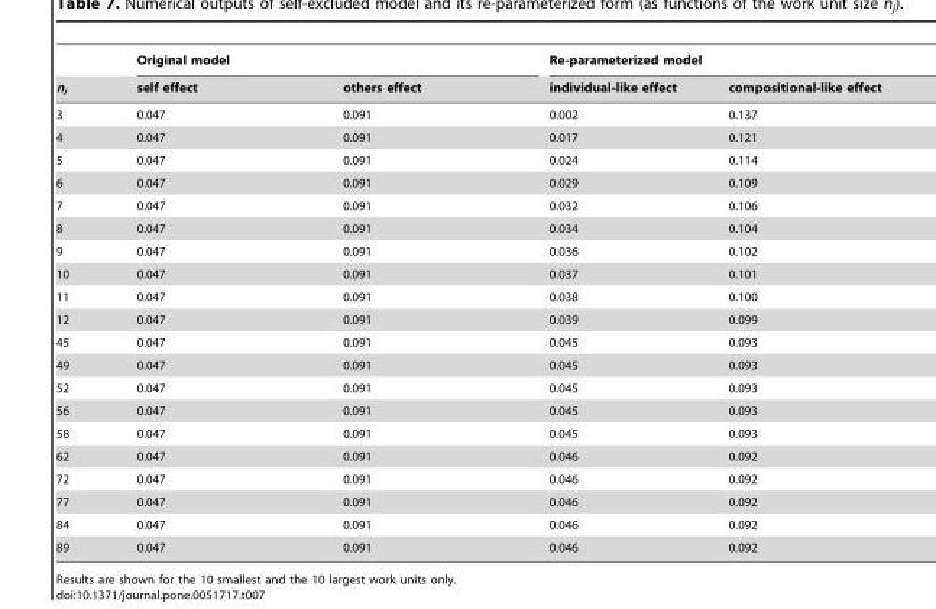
<table><thead><tr><td rowspan="2">n<sub>j</sub></td><td colspan="2">Original model</td><td colspan="2">Re-parameterized model</td></tr><tr><td>self effect</td><td>others effect</td><td>individual-like effect</td><td>compositional-like effect</td></tr></thead><tbody><tr><td>3</td><td>0.047</td><td>0.091</td><td>0.002</td><td>0.137</td></tr><tr><td>4</td><td>0.047</td><td>0.091</td><td>0.017</td><td>0.121</td></tr><tr><td>5</td><td>0.047</td><td>0.091</td><td>0.024</td><td>0.114</td></tr><tr><td>6</td><td>0.047</td><td>0.091</td><td>0.029</td><td>0.109</td></tr><tr><td>7</td><td>0.047</td><td>0.091</td><td>0.032</td><td>0.106</td></tr><tr><td>8</td><td>0.047</td><td>0.091</td><td>0.034</td><td>0.104</td></tr><tr><td>9</td><td>0.047</td><td>0.091</td><td>0.036</td><td>0.102</td></tr><tr><td>10</td><td>0.047</td><td>0.091</td><td>0.037</td><td>0.101</td></tr><tr><td>11</td><td>0.047</td><td>0.091</td><td>0.038</td><td>0.100</td></tr><tr><td>12</td><td>0.047</td><td>0.091</td><td>0.039</td><td>0.099</td></tr><tr><td>45</td><td>0.047</td><td>0.091</td><td>0.045</td><td>0.093</td></tr><tr><td>49</td><td>0.047</td><td>0.091</td><td>0.045</td><td>0.093</td></tr><tr><td>52</td><td>0.047</td><td>0.091</td><td>0.045</td><td>0.093</td></tr><tr><td>56</td><td>0.047</td><td>0.091</td><td>0.045</td><td>0.093</td></tr><tr><td>58</td><td>0.047</td><td>0.091</td><td>0.045</td><td>0.093</td></tr><tr><td>62</td><td>0.047</td><td>0.091</td><td>0.046</td><td>0.092</td></tr><tr><td>72</td><td>0.047</td><td>0.091</td><td>0.046</td><td>0.092</td></tr><tr><td>77</td><td>0.047</td><td>0.091</td><td>0.046</td><td>0.092</td></tr><tr><td>84</td><td>0.047</td><td>0.091</td><td>0.046</td><td>0.092</td></tr><tr><td>89</td><td>0.047</td><td>0.091</td><td>0.046</td><td>0.092</td></tr></tbody></table>